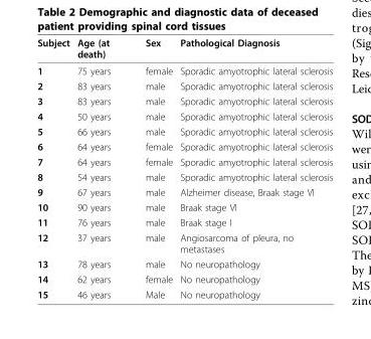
<table><thead><tr><td>Subject</td><td>Age (at death)</td><td>Sex</td><td>Pathological Diagnosis</td></tr></thead><tbody><tr><td>1</td><td>75 years</td><td>female</td><td>Sporadic amyotrophic lateral sclerosis</td></tr><tr><td>2</td><td>83 years</td><td>male</td><td>Sporadic amyotrophic lateral sclerosis</td></tr><tr><td>3</td><td>83 years</td><td>male</td><td>Sporadic amyotrophic lateral sclerosis</td></tr><tr><td>4</td><td>50 years</td><td>male</td><td>Sporadic amyotrophic lateral sclerosis</td></tr><tr><td>5</td><td>66 years</td><td>male</td><td>Sporadic amyotrophic lateral sclerosis</td></tr><tr><td>6</td><td>64 years</td><td>female</td><td>Sporadic amyotrophic lateral sclerosis</td></tr><tr><td>7</td><td>64 years</td><td>female</td><td>Sporadic amyotrophic lateral sclerosis</td></tr><tr><td>8</td><td>54 years</td><td>male</td><td>Sporadic amyotrophic lateral sclerosis</td></tr><tr><td>9</td><td>67 years</td><td>male</td><td>Alzheimer disease, Braak stage VI</td></tr><tr><td>10</td><td>90 years</td><td>male</td><td>Braak stage VI</td></tr><tr><td>11</td><td>76 years</td><td>male</td><td>Braak stage I</td></tr><tr><td>12</td><td>37 years</td><td>male</td><td>Angiosarcoma of pleura, no metastases</td></tr><tr><td>13</td><td>78 years</td><td>male</td><td>No neuropathology</td></tr><tr><td>14</td><td>62 years</td><td>female</td><td>No neuropathology</td></tr><tr><td>15</td><td>46 years</td><td>Male</td><td>No neuropathology</td></tr></tbody></table>